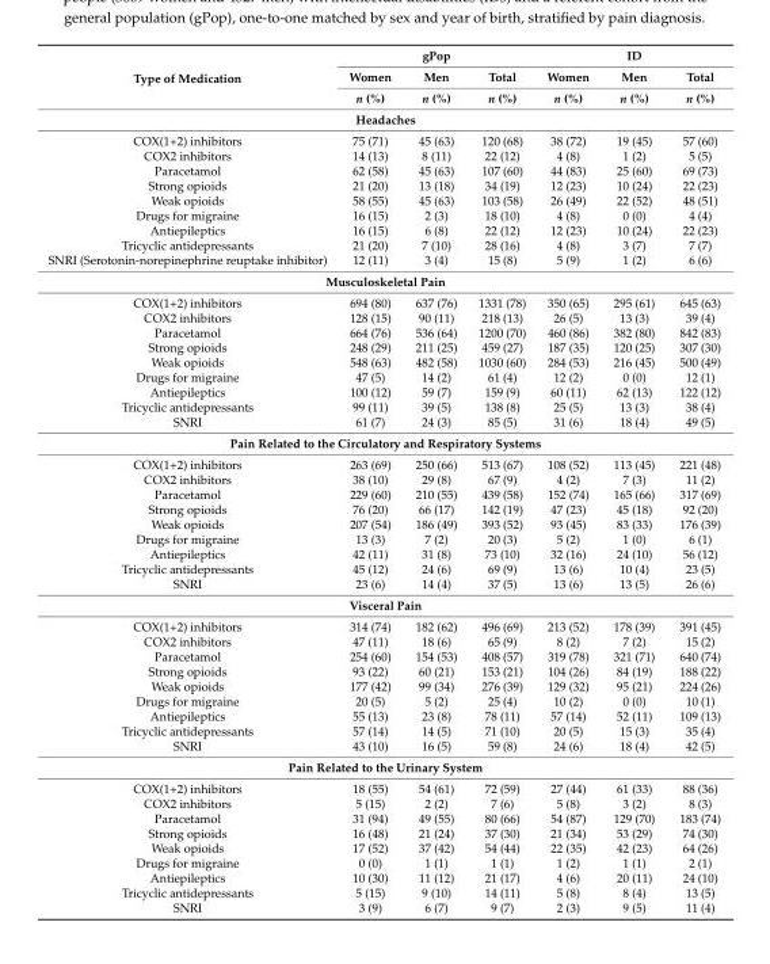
<table><thead><tr><td rowspan="3">Type of Medication</td><td colspan="3">gPop</td><td colspan="3">ID</td></tr><tr><td rowspan="2">Women n (%)</td><td rowspan="2">Men n (%)</td><td rowspan="2">Total n (%)</td><td rowspan="2">Women n (%)</td><td rowspan="2">Men n (%)</td><td rowspan="2">Total n (%)</td></tr><tr></tr></thead><tbody><tr><td colspan="7">Headaches</td></tr><tr><td>COX(1+2) inhibitors</td><td>75 (71)</td><td>45 (63)</td><td>120 (68)</td><td>38 (72)</td><td>19 (45)</td><td>57 (60)</td></tr><tr><td>COX2 inhibitors</td><td>14 (13)</td><td>8 (11)</td><td>22 (12)</td><td>4 (8)</td><td>1 (2)</td><td>5 (5)</td></tr><tr><td>Paracetamol</td><td>62 (58)</td><td>45 (63)</td><td>107 (60)</td><td>44 (83)</td><td>25 (60)</td><td>69 (73)</td></tr><tr><td>Strong opioids</td><td>21 (20)</td><td>13 (18)</td><td>34 (19)</td><td>12 (23)</td><td>10 (24)</td><td>22 (23)</td></tr><tr><td>Weak opioids</td><td>58 (55)</td><td>45 (63)</td><td>103 (58)</td><td>26 (49)</td><td>22 (52)</td><td>48 (51)</td></tr><tr><td>Drugs for migraine</td><td>16 (15)</td><td>2 (3)</td><td>18 (10)</td><td>4 (8)</td><td>0 (0)</td><td>4 (4)</td></tr><tr><td>Antiepileptics</td><td>16 (15)</td><td>6 (8)</td><td>22 (12)</td><td>12 (23)</td><td>10 (24)</td><td>22 (23)</td></tr><tr><td>Tricyclic antidepressants</td><td>21 (20)</td><td>7 (10)</td><td>28 (16)</td><td>4 (8)</td><td>3 (7)</td><td>7 (7)</td></tr><tr><td>SNRI (Serotonin-norepinephrine reuptake inhibitor)</td><td>12 (11)</td><td>3 (4)</td><td>15 (8)</td><td>5 (9)</td><td>1 (2)</td><td>6 (6)</td></tr><tr><td colspan="7">Musculoskeletal Pain</td></tr><tr><td>COX(1+2) inhibitors</td><td>694 (80)</td><td>637 (76)</td><td>1331 (78)</td><td>350 (65)</td><td>295 (61)</td><td>645 (63)</td></tr><tr><td>COX2 inhibitors</td><td>128 (15)</td><td>90 (11)</td><td>218 (13)</td><td>26 (5)</td><td>13 (3)</td><td>39 (4)</td></tr><tr><td>Paracetamol</td><td>664 (76)</td><td>536 (64)</td><td>1200 (70)</td><td>460 (86)</td><td>382 (80)</td><td>842 (83)</td></tr><tr><td>Strong opioids</td><td>248 (29)</td><td>211 (25)</td><td>459 (27)</td><td>187 (35)</td><td>120 (25)</td><td>307 (30)</td></tr><tr><td>Weak opioids</td><td>548 (63)</td><td>482 (58)</td><td>1030 (60)</td><td>284 (53)</td><td>216 (45)</td><td>500 (49)</td></tr><tr><td>Drugs for migraine</td><td>47 (5)</td><td>14 (2)</td><td>61 (4)</td><td>12 (2)</td><td>0 (0)</td><td>12 (1)</td></tr><tr><td>Antiepileptics</td><td>100 (12)</td><td>59 (7)</td><td>159 (9)</td><td>60 (11)</td><td>62 (13)</td><td>122 (12)</td></tr><tr><td>Tricyclic antidepressants</td><td>99 (11)</td><td>39 (5)</td><td>138 (8)</td><td>25 (5)</td><td>13 (3)</td><td>38 (4)</td></tr><tr><td>SNRI</td><td>61 (7)</td><td>24 (3)</td><td>85 (5)</td><td>31 (6)</td><td>18 (4)</td><td>49 (5)</td></tr><tr><td colspan="7">Pain Related to the Circulatory and Respiratory Systems</td></tr><tr><td>COX(1+2) inhibitors</td><td>263 (69)</td><td>250 (66)</td><td>513 (67)</td><td>108 (52)</td><td>113 (45)</td><td>221 (48)</td></tr><tr><td>COX2 inhibitors</td><td>38 (10)</td><td>29 (8)</td><td>67 (9)</td><td>4 (2)</td><td>7 (3)</td><td>11 (2)</td></tr><tr><td>Paracetamol</td><td>229 (60)</td><td>210 (55)</td><td>439 (58)</td><td>152 (74)</td><td>165 (66)</td><td>317 (69)</td></tr><tr><td>Strong opioids</td><td>76 (20)</td><td>66 (17)</td><td>142 (19)</td><td>47 (23)</td><td>45 (18)</td><td>92 (20)</td></tr><tr><td>Weak opioids</td><td>207 (54)</td><td>186 (49)</td><td>393 (52)</td><td>93 (45)</td><td>83 (33)</td><td>176 (39)</td></tr><tr><td>Drugs for migraine</td><td>13 (3)</td><td>7 (2)</td><td>20 (3)</td><td>5 (2)</td><td>1 (0)</td><td>6 (1)</td></tr><tr><td>Antiepileptics</td><td>42 (11)</td><td>31 (8)</td><td>73 (10)</td><td>32 (16)</td><td>24 (10)</td><td>56 (12)</td></tr><tr><td>Tricyclic antidepressants</td><td>45 (12)</td><td>24 (6)</td><td>69 (9)</td><td>13 (6)</td><td>10 (4)</td><td>23 (5)</td></tr><tr><td>SNRI</td><td>23 (6)</td><td>14 (4)</td><td>37 (5)</td><td>13 (6)</td><td>13 (5)</td><td>26 (6)</td></tr><tr><td colspan="7">Visceral Pain</td></tr><tr><td>COX(1+2) inhibitors</td><td>314 (74)</td><td>182 (62)</td><td>496 (69)</td><td>213 (52)</td><td>178 (39)</td><td>391 (45)</td></tr><tr><td>COX2 inhibitors</td><td>47 (11)</td><td>18 (6)</td><td>65 (9)</td><td>8 (2)</td><td>7 (2)</td><td>15 (2)</td></tr><tr><td>Paracetamol</td><td>254 (60)</td><td>154 (53)</td><td>408 (57)</td><td>319 (78)</td><td>321 (71)</td><td>640 (74)</td></tr><tr><td>Strong opioids</td><td>93 (22)</td><td>60 (21)</td><td>153 (21)</td><td>104 (26)</td><td>84 (19)</td><td>188 (22)</td></tr><tr><td>Weak opioids</td><td>177 (42)</td><td>99 (34)</td><td>276 (39)</td><td>129 (32)</td><td>95 (21)</td><td>224 (26)</td></tr><tr><td>Drugs for migraine</td><td>20 (5)</td><td>5 (2)</td><td>25 (4)</td><td>10 (2)</td><td>0 (0)</td><td>10 (1)</td></tr><tr><td>Antiepileptics</td><td>55 (13)</td><td>23 (8)</td><td>78 (11)</td><td>57 (14)</td><td>52 (11)</td><td>109 (13)</td></tr><tr><td>Tricyclic antidepressants</td><td>57 (14)</td><td>14 (5)</td><td>71 (10)</td><td>20 (5)</td><td>15 (3)</td><td>35 (4)</td></tr><tr><td>SNRI</td><td>43 (10)</td><td>16 (5)</td><td>59 (8)</td><td>24 (6)</td><td>18 (4)</td><td>42 (5)</td></tr><tr><td colspan="7">Pain Related to the Urinary System</td></tr><tr><td>COX(1+2) inhibitors</td><td>18 (55)</td><td>54 (61)</td><td>72 (59)</td><td>27 (44)</td><td>61 (33)</td><td>88 (36)</td></tr><tr><td>COX2 inhibitors</td><td>5 (15)</td><td>2 (2)</td><td>7 (6)</td><td>5 (8)</td><td>3 (2)</td><td>8 (3)</td></tr><tr><td>Paracetamol</td><td>31 (94)</td><td>49 (55)</td><td>80 (66)</td><td>54 (87)</td><td>129 (70)</td><td>183 (74)</td></tr><tr><td>Strong opioids</td><td>16 (48)</td><td>21 (24)</td><td>37 (30)</td><td>21 (34)</td><td>53 (29)</td><td>74 (30)</td></tr><tr><td>Weak opioids</td><td>17 (52)</td><td>37 (42)</td><td>54 (44)</td><td>22 (35)</td><td>42 (23)</td><td>64 (26)</td></tr><tr><td>Drugs for migraine</td><td>0 (0)</td><td>1 (1)</td><td>1 (1)</td><td>1 (2)</td><td>1 (1)</td><td>2 (1)</td></tr><tr><td>Antiepileptics</td><td>10 (30)</td><td>11 (12)</td><td>21 (17)</td><td>4 (6)</td><td>20 (11)</td><td>24 (10)</td></tr><tr><td>Tricyclic antidepressants</td><td>5 (15)</td><td>9 (10)</td><td>14 (11)</td><td>5 (8)</td><td>8 (4)</td><td>13 (5)</td></tr><tr><td>SNRI</td><td>3 (9)</td><td>6 (7)</td><td>9 (7)</td><td>2 (3)</td><td>9 (5)</td><td>11 (4)</td></tr></tbody></table>